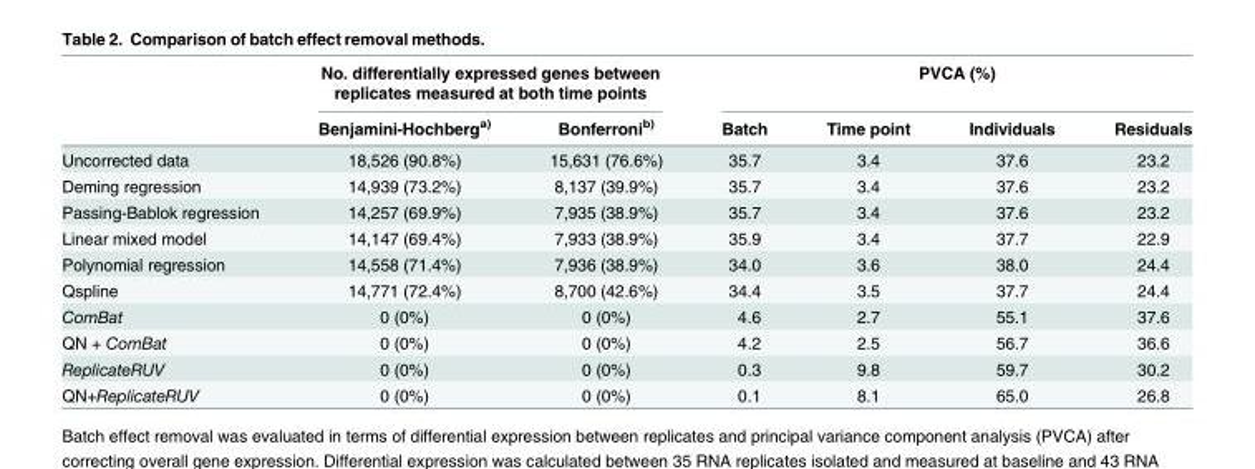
<table><thead><tr><td rowspan="2"></td><td colspan="2">No. differentially expressed genes between replicates measured at both time points</td><td colspan="4">PVCA (%)</td></tr><tr><td>Benjamini-Hochberg<sup>a)</sup></td><td>Bonferroni<sup>b)</sup></td><td>Batch</td><td>Time point</td><td>Individuals</td><td>Residuals</td></tr></thead><tbody><tr><td>Uncorrected data</td><td>18,526 (90.8%)</td><td>15,631 (76.6%)</td><td>35.7</td><td>3.4</td><td>37.6</td><td>23.2</td></tr><tr><td>Deming regression</td><td>14,939 (73.2%)</td><td>8,137 (39.9%)</td><td>35.7</td><td>3.4</td><td>37.6</td><td>23.2</td></tr><tr><td>Passing-Bablok regression</td><td>14,257 (69.9%)</td><td>7,935 (38.9%)</td><td>35.7</td><td>3.4</td><td>37.6</td><td>23.2</td></tr><tr><td>Linear mixed model</td><td>14,147 (69.4%)</td><td>7,933 (38.9%)</td><td>35.9</td><td>3.4</td><td>37.7</td><td>22.9</td></tr><tr><td>Polynomial regression</td><td>14,558 (71.4%)</td><td>7,936 (38.9%)</td><td>34.0</td><td>3.6</td><td>38.0</td><td>24.4</td></tr><tr><td>Qspline</td><td>14,771 (72.4%)</td><td>8,700 (42.6%)</td><td>34.4</td><td>3.5</td><td>37.7</td><td>24.4</td></tr><tr><td>ComBat</td><td>0 (0%)</td><td>0 (0%)</td><td>4.6</td><td>2.7</td><td>55.1</td><td>37.6</td></tr><tr><td>QN + ComBat</td><td>0 (0%)</td><td>0 (0%)</td><td>4.2</td><td>2.5</td><td>56.7</td><td>36.6</td></tr><tr><td>ReplicateRUV</td><td>0 (0%)</td><td>0 (0%)</td><td>0.3</td><td>9.8</td><td>59.7</td><td>30.2</td></tr><tr><td>QN+ReplicateRUV</td><td>0 (0%)</td><td>0 (0%)</td><td>0.1</td><td>8.1</td><td>65.0</td><td>26.8</td></tr></tbody></table>